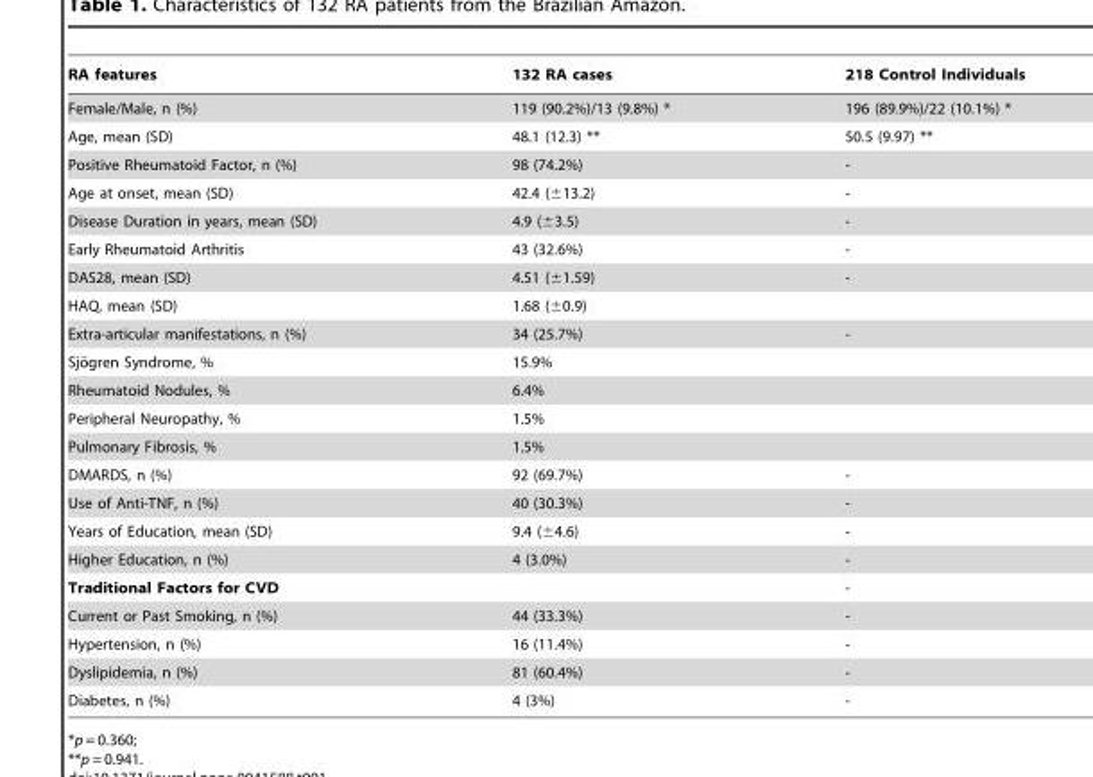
<table><thead><tr><td>RA features</td><td>132 RA cases</td><td>218 Control Individuals</td></tr></thead><tbody><tr><td>Female/Male, n (%)</td><td>119 (90.2%)/13 (9.8%) *</td><td>196 (89.9%)/22 (10.1%) *</td></tr><tr><td>Age, mean (SD)</td><td>48.1 (12.3) **</td><td>50.5 (9.97) **</td></tr><tr><td>Positive Rheumatoid Factor, n (%)</td><td>98 (74.2%)</td><td>-</td></tr><tr><td>Age at onset, mean (SD)</td><td>42.4 (±13.2)</td><td>-</td></tr><tr><td>Disease Duration in years, mean (SD)</td><td>4.9 (±3.5)</td><td>-</td></tr><tr><td>Early Rheumatoid Arthritis</td><td>43 (32.6%)</td><td>-</td></tr><tr><td>DAS28, mean (SD)</td><td>4.51 (±1.59)</td><td>-</td></tr><tr><td>HAQ, mean (SD)</td><td>1.68 (±0.9)</td><td></td></tr><tr><td>Extra-articular manifestations, n (%)</td><td>34 (25.7%)</td><td>-</td></tr><tr><td>Sjo¨gren Syndrome, %</td><td>15.9%</td><td></td></tr><tr><td>Rheumatoid Nodules, %</td><td>6.4%</td><td></td></tr><tr><td>Peripheral Neuropathy, %</td><td>1.5%</td><td></td></tr><tr><td>Pulmonary Fibrosis, %</td><td>1.5%</td><td></td></tr><tr><td>DMARDS, n (%)</td><td>92 (69.7%)</td><td>-</td></tr><tr><td>Use of Anti-TNF, n (%)</td><td>40 (30.3%)</td><td>-</td></tr><tr><td>Years of Education, mean (SD)</td><td>9.4 (±4.6)</td><td>-</td></tr><tr><td>Higher Education, n (%)</td><td>4 (3.0%)</td><td>-</td></tr><tr><td>Traditional Factors for CVD</td><td></td><td>-</td></tr><tr><td>Current or Past Smoking, n (%)</td><td>44 (33.3%)</td><td>-</td></tr><tr><td>Hypertension, n (%)</td><td>16 (11.4%)</td><td>-</td></tr><tr><td>Dyslipidemia, n (%)</td><td>81 (60.4%)</td><td>-</td></tr><tr><td>Diabetes, n (%)</td><td>4 (3%)</td><td>-</td></tr></tbody></table>